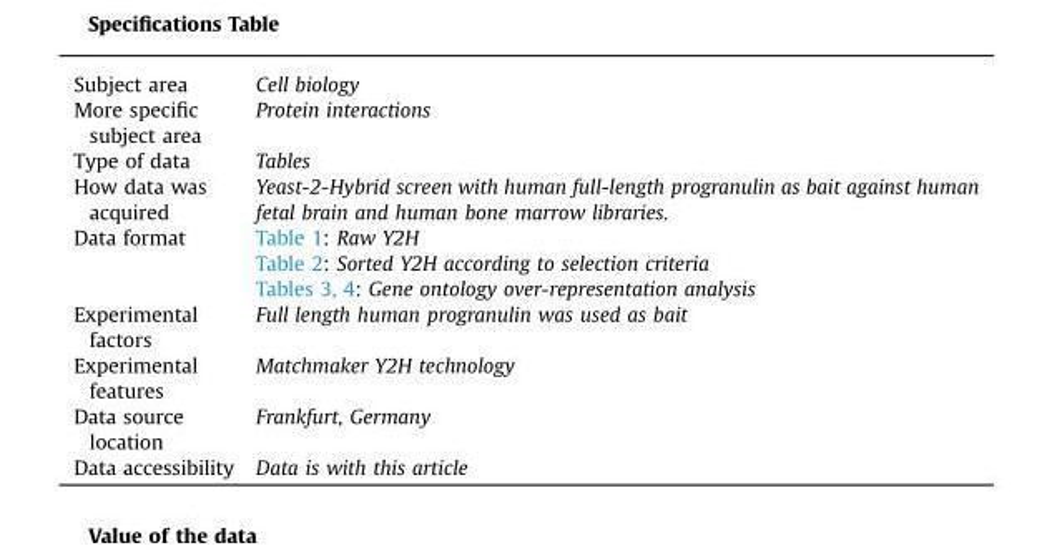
<table><tbody><tr><td>Subject area</td><td>Cell biology</td></tr><tr><td>More specific subject area</td><td>Protein interactions</td></tr><tr><td>Type of data</td><td>Tables</td></tr><tr><td>How data was acquired</td><td>Yeast-2-Hybrid screen with human full-length progranulin as bait against human fetal brain and human bone marrow libraries.</td></tr><tr><td rowspan="3">Data format</td><td>Table 1: Raw Y2H</td></tr><tr><td>Table 2: Sorted Y2H according to selection criteria</td></tr><tr><td>Tables 3, 4: Gene ontology over-representation analysis</td></tr><tr><td>Experimental factors</td><td>Full length human progranulin was used as bait</td></tr><tr><td>Experimental features</td><td>Matchmaker Y2H technology</td></tr><tr><td>Data source location</td><td>Frankfurt, Germany</td></tr><tr><td>Data accessibility</td><td>Data is with this article</td></tr></tbody></table>